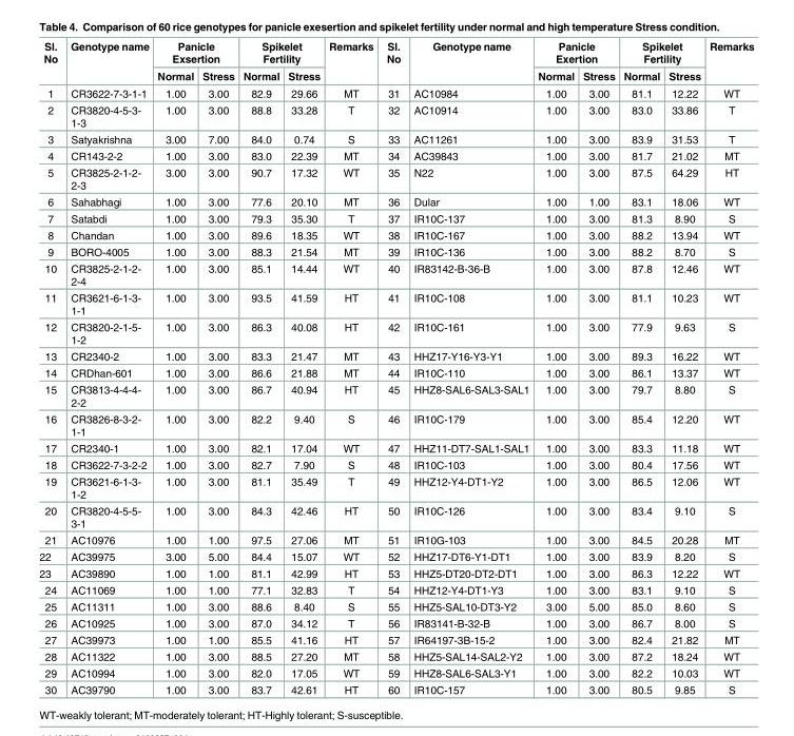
<table><thead><tr><td rowspan="2">Sl. No</td><td rowspan="2">Genotype name</td><td colspan="2">Panicle Exsertion</td><td colspan="2">Spikelet Fertility</td><td rowspan="2">Remarks</td><td rowspan="2">Sl. No</td><td rowspan="2">Genotype name</td><td colspan="2">Panicle Exertion</td><td colspan="2">Spikelet Fertility</td><td rowspan="2">Remarks</td></tr><tr><td>Normal</td><td>Stress</td><td>Normal</td><td>Stress</td><td>Normal</td><td>Stress</td><td>Normal</td><td>Stress</td></tr></thead><tbody><tr><td>1</td><td>CR3622-7-3-1-1</td><td>1.00</td><td>3.00</td><td>82.9</td><td>29.66</td><td>MT</td><td>31</td><td>AC10984</td><td>1.00</td><td>3.00</td><td>81.1</td><td>12.22</td><td>WT</td></tr><tr><td>2</td><td>CR3820-4-5-3- 1-3</td><td>1.00</td><td>3.00</td><td>88.8</td><td>33.28</td><td>T</td><td>32</td><td>AC10914</td><td>1.00</td><td>3.00</td><td>83.0</td><td>33.86</td><td>T</td></tr><tr><td>3</td><td>Satyakrishna</td><td>3.00</td><td>7.00</td><td>84.0</td><td>0.74</td><td>S</td><td>33</td><td>AC11261</td><td>1.00</td><td>3.00</td><td>83.9</td><td>31.53</td><td>T</td></tr><tr><td>4</td><td>CR143-2-2</td><td>1.00</td><td>3.00</td><td>83.0</td><td>22.39</td><td>MT</td><td>34</td><td>AC39843</td><td>1.00</td><td>3.00</td><td>81.7</td><td>21.02</td><td>MT</td></tr><tr><td>5</td><td>CR3825-2-1-2- 2-3</td><td>3.00</td><td>3.00</td><td>90.7</td><td>17.32</td><td>WT</td><td>35</td><td>N22</td><td>1.00</td><td>3.00</td><td>87.5</td><td>64.29</td><td>HT</td></tr><tr><td>6</td><td>Sahabhagi</td><td>1.00</td><td>3.00</td><td>77.6</td><td>20.10</td><td>MT</td><td>36</td><td>Dular</td><td>1.00</td><td>1.00</td><td>83.1</td><td>18.06</td><td>WT</td></tr><tr><td>7</td><td>Satabdi</td><td>1.00</td><td>3.00</td><td>79.3</td><td>35.30</td><td>T</td><td>37</td><td>IR10C-137</td><td>1.00</td><td>3.00</td><td>81.3</td><td>8.90</td><td>S</td></tr><tr><td>8</td><td>Chandan</td><td>1.00</td><td>3.00</td><td>89.6</td><td>18.35</td><td>WT</td><td>38</td><td>IR10C-167</td><td>1.00</td><td>3.00</td><td>88.2</td><td>13.94</td><td>WT</td></tr><tr><td>9</td><td>BORO-4005</td><td>1.00</td><td>3.00</td><td>88.3</td><td>21.54</td><td>MT</td><td>39</td><td>IR10C-136</td><td>1.00</td><td>3.00</td><td>88.2</td><td>8.70</td><td>S</td></tr><tr><td>10</td><td>CR3825-2-1-2- 2-4</td><td>1.00</td><td>3.00</td><td>85.1</td><td>14.44</td><td>WT</td><td>40</td><td>IR83142-B-36-B</td><td>1.00</td><td>3.00</td><td>87.8</td><td>12.46</td><td>WT</td></tr><tr><td>11</td><td>CR3621-6-1-3- 1-1</td><td>1.00</td><td>3.00</td><td>93.5</td><td>41.59</td><td>HT</td><td>41</td><td>IR10C-108</td><td>1.00</td><td>3.00</td><td>81.1</td><td>10.23</td><td>WT</td></tr><tr><td>12</td><td>CR3820-2-1-5- 1-2</td><td>1.00</td><td>3.00</td><td>86.3</td><td>40.08</td><td>HT</td><td>42</td><td>IR10C-161</td><td>1.00</td><td>3.00</td><td>77.9</td><td>9.63</td><td>S</td></tr><tr><td>13</td><td>CR2340-2</td><td>1.00</td><td>3.00</td><td>83.3</td><td>21.47</td><td>MT</td><td>43</td><td>HHZ17-Y16-Y3-Y1</td><td>1.00</td><td>3.00</td><td>89.3</td><td>16.22</td><td>WT</td></tr><tr><td>14</td><td>CRDhan-601</td><td>1.00</td><td>3.00</td><td>86.6</td><td>21.88</td><td>MT</td><td>44</td><td>IR10C-110</td><td>1.00</td><td>3.00</td><td>86.1</td><td>13.37</td><td>WT</td></tr><tr><td>15</td><td>CR3813-4-4-4- 2-2</td><td>1.00</td><td>3.00</td><td>86.7</td><td>40.94</td><td>HT</td><td>45</td><td>HHZ8-SAL6-SAL3-SAL1</td><td>1.00</td><td>3.00</td><td>79.7</td><td>8.80</td><td>S</td></tr><tr><td>16</td><td>CR3826-8-3-2- 1-1</td><td>1.00</td><td>3.00</td><td>82.2</td><td>9.40</td><td>S</td><td>46</td><td>IR10C-179</td><td>1.00</td><td>3.00</td><td>85.4</td><td>12.20</td><td>WT</td></tr><tr><td>17</td><td>CR2340-1</td><td>1.00</td><td>3.00</td><td>82.1</td><td>17.04</td><td>WT</td><td>47</td><td>HHZ11-DT7-SAL1-SAL1</td><td>1.00</td><td>3.00</td><td>83.3</td><td>11.18</td><td>WT</td></tr><tr><td>18</td><td>CR3622-7-3-2-2</td><td>1.00</td><td>3.00</td><td>82.7</td><td>7.90</td><td>S</td><td>48</td><td>IR10C-103</td><td>1.00</td><td>3.00</td><td>80.4</td><td>17.56</td><td>WT</td></tr><tr><td>19</td><td>CR3621-6-1-3- 1-2</td><td>1.00</td><td>3.00</td><td>81.1</td><td>35.49</td><td>T</td><td>49</td><td>HHZ12-Y4-DT1-Y2</td><td>1.00</td><td>3.00</td><td>86.5</td><td>12.06</td><td>WT</td></tr><tr><td>20</td><td>CR3820-4-5-5- 3-1</td><td>1.00</td><td>3.00</td><td>84.3</td><td>42.46</td><td>HT</td><td>50</td><td>IR10C-126</td><td>1.00</td><td>3.00</td><td>83.4</td><td>9.10</td><td>S</td></tr><tr><td>21</td><td>AC10976</td><td>1.00</td><td>1.00</td><td>97.5</td><td>27.06</td><td>MT</td><td>51</td><td>IR10G-103</td><td>1.00</td><td>3.00</td><td>84.5</td><td>20.28</td><td>MT</td></tr><tr><td>22</td><td>AC39975</td><td>3.00</td><td>5.00</td><td>84.4</td><td>15.07</td><td>WT</td><td>52</td><td>HHZ17-DT6-Y1-DT1</td><td>1.00</td><td>3.00</td><td>83.9</td><td>8.20</td><td>S</td></tr><tr><td>23</td><td>AC39890</td><td>1.00</td><td>1.00</td><td>81.1</td><td>42.99</td><td>HT</td><td>53</td><td>HHZ5-DT20-DT2-DT1</td><td>1.00</td><td>3.00</td><td>86.3</td><td>12.22</td><td>WT</td></tr><tr><td>24</td><td>AC11069</td><td>1.00</td><td>1.00</td><td>77.1</td><td>32.83</td><td>T</td><td>54</td><td>HHZ12-Y4-DT1-Y3</td><td>1.00</td><td>3.00</td><td>83.1</td><td>9.10</td><td>S</td></tr><tr><td>25</td><td>AC11311</td><td>1.00</td><td>3.00</td><td>88.6</td><td>8.40</td><td>S</td><td>55</td><td>HHZ5-SAL10-DT3-Y2</td><td>3.00</td><td>5.00</td><td>85.0</td><td>8.60</td><td>S</td></tr><tr><td>26</td><td>AC10925</td><td>1.00</td><td>3.00</td><td>87.0</td><td>34.12</td><td>T</td><td>56</td><td>IR83141-B-32-B</td><td>1.00</td><td>3.00</td><td>86.7</td><td>8.00</td><td>S</td></tr><tr><td>27</td><td>AC39973</td><td>1.00</td><td>1.00</td><td>85.5</td><td>41.16</td><td>HT</td><td>57</td><td>IR64197-3B-15-2</td><td>1.00</td><td>3.00</td><td>82.4</td><td>21.82</td><td>MT</td></tr><tr><td>28</td><td>AC11322</td><td>1.00</td><td>3.00</td><td>88.5</td><td>27.20</td><td>MT</td><td>58</td><td>HHZ5-SAL14-SAL2-Y2</td><td>1.00</td><td>3.00</td><td>87.2</td><td>18.24</td><td>WT</td></tr><tr><td>29</td><td>AC10994</td><td>1.00</td><td>3.00</td><td>82.0</td><td>17.05</td><td>WT</td><td>59</td><td>HHZ8-SAL6-SAL3-Y1</td><td>1.00</td><td>3.00</td><td>82.2</td><td>10.03</td><td>WT</td></tr><tr><td>30</td><td>AC39790</td><td>1.00</td><td>3.00</td><td>83.7</td><td>42.61</td><td>HT</td><td>60</td><td>IR10C-157</td><td>1.00</td><td>3.00</td><td>80.5</td><td>9.85</td><td>S</td></tr></tbody></table>